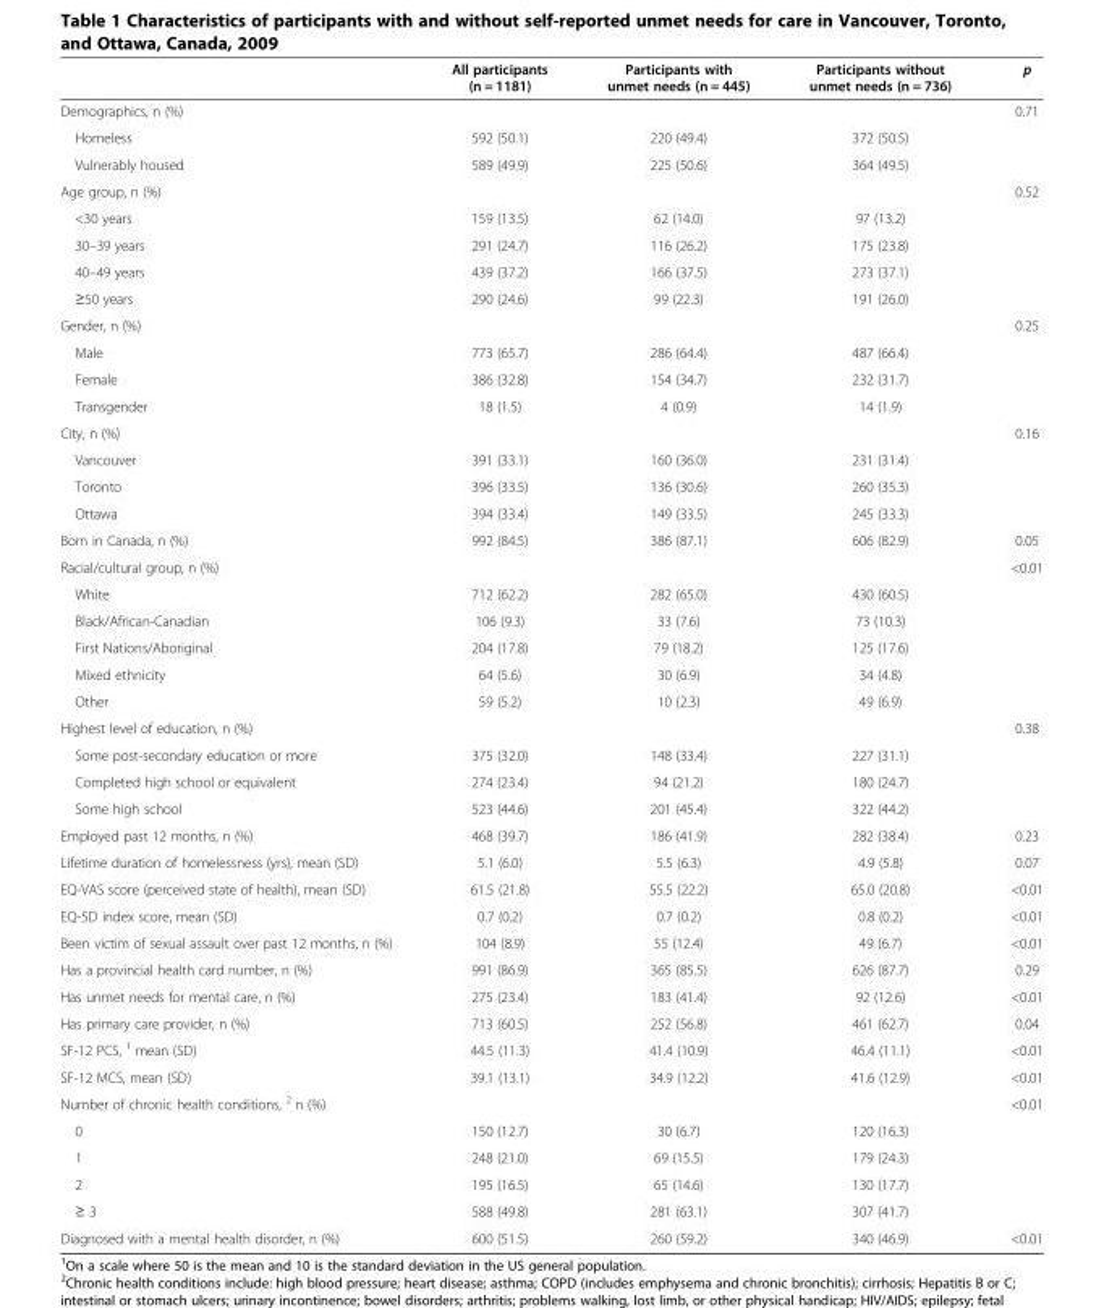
<table><thead><tr><td></td><td>All participants (n = 1181)</td><td>Participants with unmet needs (n = 445)</td><td>Participants without unmet needs (n = 736)</td><td>p</td></tr></thead><tbody><tr><td>Demographics, n (%)</td><td></td><td></td><td></td><td>0.71</td></tr><tr><td>Homeless</td><td>592 (50.1)</td><td>220 (49.4)</td><td>372 (50.5)</td><td></td></tr><tr><td>Vulnerably housed</td><td>589 (49.9)</td><td>225 (50.6)</td><td>364 (49.5)</td><td></td></tr><tr><td>Age group, n (%)</td><td></td><td></td><td></td><td>0.52</td></tr><tr><td>&lt;30 years</td><td>159 (13.5)</td><td>62 (14.0)</td><td>97 (13.2)</td><td></td></tr><tr><td>30–39 years</td><td>291 (24.7)</td><td>116 (26.2)</td><td>175 (23.8)</td><td></td></tr><tr><td>40–49 years</td><td>439 (37.2)</td><td>166 (37.5)</td><td>273 (37.1)</td><td></td></tr><tr><td>≥50 years</td><td>290 (24.6)</td><td>99 (22.3)</td><td>191 (26.0)</td><td></td></tr><tr><td>Gender, n (%)</td><td></td><td></td><td></td><td>0.25</td></tr><tr><td>Male</td><td>773 (65.7)</td><td>286 (64.4)</td><td>487 (66.4)</td><td></td></tr><tr><td>Female</td><td>386 (32.8)</td><td>154 (34.7)</td><td>232 (31.7)</td><td></td></tr><tr><td>Transgender</td><td>18 (1.5)</td><td>4 (0.9)</td><td>14 (1.9)</td><td></td></tr><tr><td>City, n (%)</td><td></td><td></td><td></td><td>0.16</td></tr><tr><td>Vancouver</td><td>391 (33.1)</td><td>160 (36.0)</td><td>231 (31.4)</td><td></td></tr><tr><td>Toronto</td><td>396 (33.5)</td><td>136 (30.6)</td><td>260 (35.3)</td><td></td></tr><tr><td>Ottawa</td><td>394 (33.4)</td><td>149 (33.5)</td><td>245 (33.3)</td><td></td></tr><tr><td>Born in Canada, n (%)</td><td>992 (84.5)</td><td>386 (87.1)</td><td>606 (82.9)</td><td>0.05</td></tr><tr><td>Racial/cultural group, n (%)</td><td></td><td></td><td></td><td>&lt;0.01</td></tr><tr><td>White</td><td>712 (62.2)</td><td>282 (65.0)</td><td>430 (60.5)</td><td></td></tr><tr><td>Black/African-Canadian</td><td>106 (9.3)</td><td>33 (7.6)</td><td>73 (10.3)</td><td></td></tr><tr><td>First Nations/Aboriginal</td><td>204 (17.8)</td><td>79 (18.2)</td><td>125 (17.6)</td><td></td></tr><tr><td>Mixed ethnicity</td><td>64 (5.6)</td><td>30 (6.9)</td><td>34 (4.8)</td><td></td></tr><tr><td>Other</td><td>59 (5.2)</td><td>10 (2.3)</td><td>49 (6.9)</td><td></td></tr><tr><td>Highest level of education, n (%)</td><td></td><td></td><td></td><td>0.38</td></tr><tr><td>Some post-secondary education or more</td><td>375 (32.0)</td><td>148 (33.4)</td><td>227 (31.1)</td><td></td></tr><tr><td>Completed high school or equivalent</td><td>274 (23.4)</td><td>94 (21.2)</td><td>180 (24.7)</td><td></td></tr><tr><td>Some high school</td><td>523 (44.6)</td><td>201 (45.4)</td><td>322 (44.2)</td><td></td></tr><tr><td>Employed past 12 months, n (%)</td><td>468 (39.7)</td><td>186 (41.9)</td><td>282 (38.4)</td><td>0.23</td></tr><tr><td>Lifetime duration of homelessness (yrs), mean (SD)</td><td>5.1 (6.0)</td><td>5.5 (6.3)</td><td>4.9 (5.8)</td><td>0.07</td></tr><tr><td>EQ-VAS score (perceived state of health), mean (SD)</td><td>61.5 (21.8)</td><td>55.5 (22.2)</td><td>65.0 (20.8)</td><td>&lt;0.01</td></tr><tr><td>EQ-5D index score, mean (SD)</td><td>0.7 (0.2)</td><td>0.7 (0.2)</td><td>0.8 (0.2)</td><td>&lt;0.01</td></tr><tr><td>Been victim of sexual assault over past 12 months, n (%)</td><td>104 (8.9)</td><td>55 (12.4)</td><td>49 (6.7)</td><td>&lt;0.01</td></tr><tr><td>Has a provincial health card number, n (%)</td><td>991 (86.9)</td><td>365 (85.5)</td><td>626 (87.7)</td><td>0.29</td></tr><tr><td>Has unmet needs for mental care, n (%)</td><td>275 (23.4)</td><td>183 (41.4)</td><td>92 (12.6)</td><td>&lt;0.01</td></tr><tr><td>Has primary care provider, n (%)</td><td>713 (60.5)</td><td>252 (56.8)</td><td>461 (62.7)</td><td>0.04</td></tr><tr><td>SF-12 PCS, <sup>1</sup> mean (SD)</td><td>44.5 (11.3)</td><td>41.4 (10.9)</td><td>46.4 (11.1)</td><td>&lt;0.01</td></tr><tr><td>SF-12 MCS, mean (SD)</td><td>39.1 (13.1)</td><td>34.9 (12.2)</td><td>41.6 (12.9)</td><td>&lt;0.01</td></tr><tr><td>Number of chronic health conditions, <sup>2</sup> n (%)</td><td></td><td></td><td></td><td>&lt;0.01</td></tr><tr><td>0</td><td>150 (12.7)</td><td>30 (6.7)</td><td>120 (16.3)</td><td></td></tr><tr><td>1</td><td>248 (21.0)</td><td>69 (15.5)</td><td>179 (24.3)</td><td></td></tr><tr><td>2</td><td>195 (16.5)</td><td>65 (14.6)</td><td>130 (17.7)</td><td></td></tr><tr><td>≥ 3</td><td>588 (49.8)</td><td>281 (63.1)</td><td>307 (41.7)</td><td></td></tr><tr><td>Diagnosed with a mental health disorder, n (%)</td><td>600 (51.5)</td><td>260 (59.2)</td><td>340 (46.9)</td><td>&lt;0.01</td></tr></tbody></table>